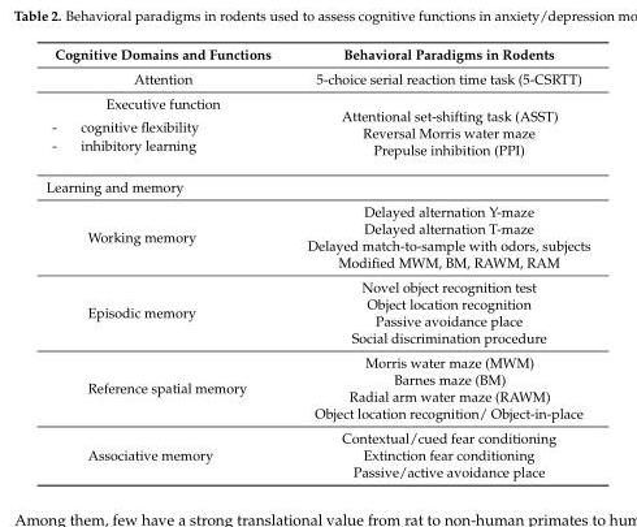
<table><thead><tr><td>Cognitive Domains and Functions</td><td>Behavioral Paradigms in Rodents</td></tr></thead><tbody><tr><td>Attention</td><td>5-choice serial reaction time task (5-CSRTT)</td></tr><tr><td>Executive function - cognitive flexibility - inhibitory learning</td><td>Attentional set-shifting task (ASST) Reversal Morris water maze Prepulse inhibition (PPI)</td></tr><tr><td colspan="2">Learning and memory</td></tr><tr><td>Working memory</td><td>Delayed alternation Y-maze Delayed alternation T-maze Delayed match-to-sample with odors, subjects Modified MWM, BM, RAWM, RAM</td></tr><tr><td>Episodic memory</td><td>Novel object recognition test Object location recognition Passive avoidance place Social discrimination procedure</td></tr><tr><td>Reference spatial memory</td><td>Morris water maze (MWM) Barnes maze (BM) Radial arm water maze (RAWM) Object location recognition/ Object-in-place</td></tr><tr><td>Associative memory</td><td>Contextual/cued fear conditioning Extinction fear conditioning Passive/active avoidance place</td></tr></tbody></table>